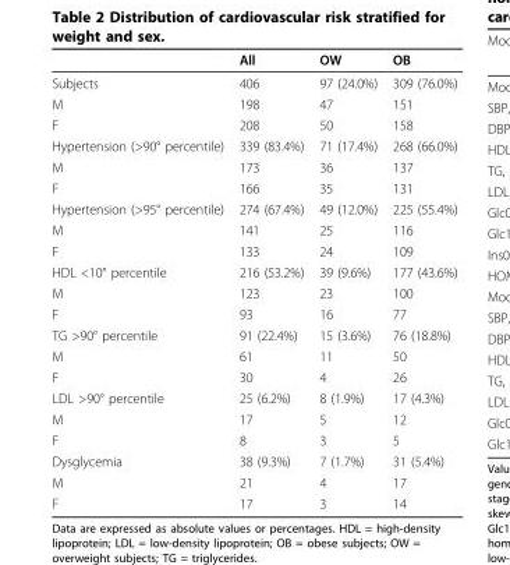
<table><thead><tr><td></td><td>All</td><td>OW</td><td>OB</td></tr></thead><tbody><tr><td>Subjects</td><td>406</td><td>97 (24.0%)</td><td>309 (76.0%)</td></tr><tr><td>M</td><td>198</td><td>47</td><td>151</td></tr><tr><td>F</td><td>208</td><td>50</td><td>158</td></tr><tr><td>Hypertension (&gt;90° percentile)</td><td>339 (83.4%)</td><td>71 (17.4%)</td><td>268 (66.0%)</td></tr><tr><td>M</td><td>173</td><td>36</td><td>137</td></tr><tr><td>F</td><td>166</td><td>35</td><td>131</td></tr><tr><td>Hypertension (&gt;95° percentile)</td><td>274 (67.4%)</td><td>49 (12.0%)</td><td>225 (55.4%)</td></tr><tr><td>M</td><td>141</td><td>25</td><td>116</td></tr><tr><td>F</td><td>133</td><td>24</td><td>109</td></tr><tr><td>HDL &lt;10° percentile</td><td>216 (53.2%)</td><td>39 (9.6%)</td><td>177 (43.6%)</td></tr><tr><td>M</td><td>123</td><td>23</td><td>100</td></tr><tr><td>F</td><td>93</td><td>16</td><td>77</td></tr><tr><td>TG &gt;90° percentile</td><td>91 (22.4%)</td><td>15 (3.6%)</td><td>76 (18.8%)</td></tr><tr><td>M</td><td>61</td><td>11</td><td>50</td></tr><tr><td>F</td><td>30</td><td>4</td><td>26</td></tr><tr><td>LDL &gt;90° percentile</td><td>25 (6.2%)</td><td>8 (1.9%)</td><td>17 (4.3%)</td></tr><tr><td>M</td><td>17</td><td>5</td><td>12</td></tr><tr><td>F</td><td>8</td><td>3</td><td>5</td></tr><tr><td>Dysglycemia</td><td>38 (9.3%)</td><td>7 (1.7%)</td><td>31 (5.4%)</td></tr><tr><td>M</td><td>21</td><td>4</td><td>17</td></tr><tr><td>F</td><td>17</td><td>3</td><td>14</td></tr></tbody></table>